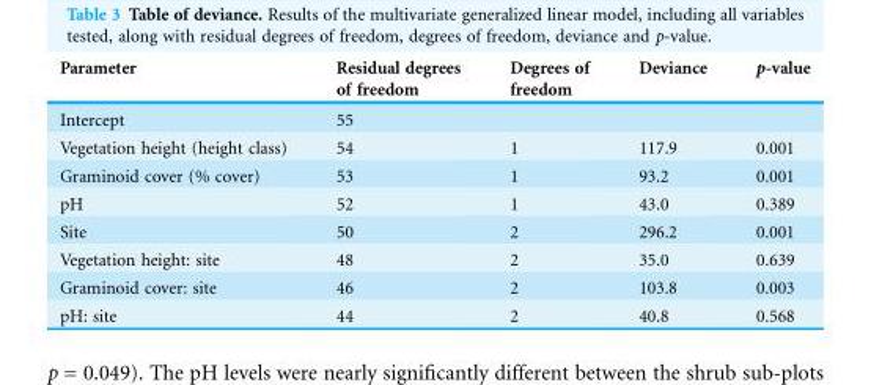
<table><thead><tr><td>Parameter</td><td>Residual degrees of freedom</td><td>Degrees of freedom</td><td>Deviance</td><td>p-value</td></tr></thead><tbody><tr><td>Intercept</td><td>55</td><td></td><td></td><td></td></tr><tr><td>Vegetation height (height class)</td><td>54</td><td>1</td><td>117.9</td><td>0.001</td></tr><tr><td>Graminoid cover (% cover)</td><td>53</td><td>1</td><td>93.2</td><td>0.001</td></tr><tr><td>pH</td><td>52</td><td>1</td><td>43.0</td><td>0.389</td></tr><tr><td>Site</td><td>50</td><td>2</td><td>296.2</td><td>0.001</td></tr><tr><td>Vegetation height: site</td><td>48</td><td>2</td><td>35.0</td><td>0.639</td></tr><tr><td>Graminoid cover: site</td><td>46</td><td>2</td><td>103.8</td><td>0.003</td></tr><tr><td>pH: site</td><td>44</td><td>2</td><td>40.8</td><td>0.568</td></tr></tbody></table>